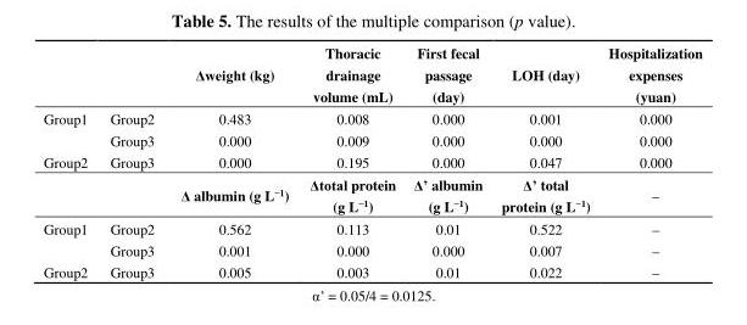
<table><thead><tr><td></td><td></td><td>Δweight (kg)</td><td>Thoracic drainage volume (mL)</td><td>First fecal passage (day)</td><td>LOH (day)</td><td>Hospitalization expenses (yuan)</td></tr></thead><tbody><tr><td rowspan="2">Group1</td><td>Group2</td><td>0.483</td><td>0.008</td><td>0.000</td><td>0.001</td><td>0.000</td></tr><tr><td>Group3</td><td>0.000</td><td>0.009</td><td>0.000</td><td>0.000</td><td>0.000</td></tr><tr><td rowspan="2">Group2</td><td>Group3</td><td>0.000</td><td>0.195</td><td>0.000</td><td>0.047</td><td>0.000</td></tr><tr><td></td><td>Δ albumin (g L<sup>−1</sup>)</td><td>Δtotal protein (g L<sup>−1</sup>)</td><td>Δ’ albumin (g L<sup>−1</sup>)</td><td>Δ’ total protein (g L<sup>−1</sup>)</td><td>–</td></tr><tr><td rowspan="2">Group1</td><td>Group2</td><td>0.562</td><td>0.113</td><td>0.01</td><td>0.522</td><td>–</td></tr><tr><td>Group3</td><td>0.001</td><td>0.000</td><td>0.000</td><td>0.007</td><td>–</td></tr><tr><td>Group2</td><td>Group3</td><td>0.005</td><td>0.003</td><td>0.01</td><td>0.022</td><td>–</td></tr></tbody></table>